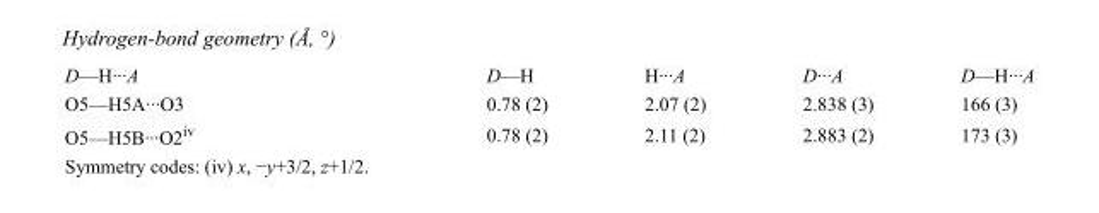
<table><tbody><tr><td>D—H···A</td><td>D—H</td><td>H···A</td><td>D···A</td><td>D—H···A</td></tr><tr><td>O5—H5A···O3</td><td>0.78 (2)</td><td>2.07 (2)</td><td>2.838 (3)</td><td>166 (3)</td></tr><tr><td>O5—H5B···O2<sup>iv</sup></td><td>0.78 (2)</td><td>2.11 (2)</td><td>2.883 (2)</td><td>173 (3)</td></tr></tbody></table>